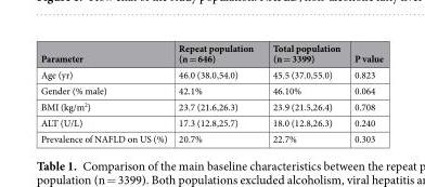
<table><thead><tr><td>Parameter</td><td>Repeat population (n = 646)</td><td>Total population (n = 3399)</td><td>P value</td></tr></thead><tbody><tr><td>Age (yr)</td><td>46.0 (38.0,54.0)</td><td>45.5 (37.0,55.0)</td><td>0.823</td></tr><tr><td>Gender (% male)</td><td>42.1%</td><td>46.10%</td><td>0.064</td></tr><tr><td>BMI (kg/m<sup>2</sup>)</td><td>23.7 (21.6,26.3)</td><td>23.9 (21.5,26.4)</td><td>0.708</td></tr><tr><td>ALT (U/L)</td><td>17.3 (12.8,25.7)</td><td>18.0 (12.8,26.3)</td><td>0.240</td></tr><tr><td>Prevalence of NAFLD on US (%)</td><td>20.7%</td><td>22.7%</td><td>0.303</td></tr></tbody></table>